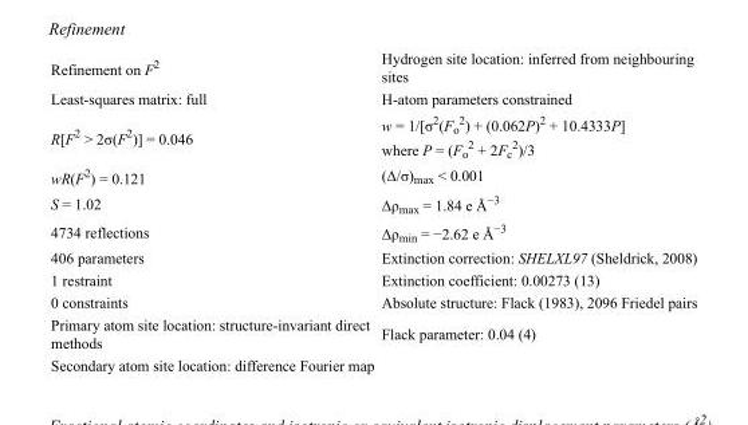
<table><tbody><tr><td>Refinement on F<sup>2</sup></td><td>Hydrogen site location: inferred from neighbouring sites</td></tr><tr><td>Least-squares matrix: full</td><td>H-atom parameters constrained</td></tr><tr><td>R[F<sup>2</sup> &gt; 2σ(F<sup>2</sup>)] = 0.046</td><td>w = 1/[σ<sup>2</sup>(F<sub>o</sub> <sup>2</sup>) + (0.062P)<sup>2</sup> + 10.4333P] where P = (F<sub>o</sub> <sup>2</sup> + 2F<sub>c</sub> <sup>2</sup>)/3</td></tr><tr><td>wR(F<sup>2</sup>) = 0.121</td><td>(Δ/σ)<sub>max</sub> &lt; 0.001</td></tr><tr><td>S = 1.02</td><td>Δρ<sub>max</sub> = 1.84 e Å<sup>−3</sup></td></tr><tr><td>4734 reflections</td><td>Δρ<sub>min</sub> = −2.62 e Å<sup>−3</sup></td></tr><tr><td>406 parameters</td><td>Extinction correction: SHELXL97 (Sheldrick, 2008)</td></tr><tr><td>1 restraint</td><td>Extinction coefficient: 0.00273 (13)</td></tr><tr><td>0 constraints</td><td>Absolute structure: Flack (1983), 2096 Friedel pairs</td></tr><tr><td>Primary atom site location: structure-invariant direct methods</td><td>Flack parameter: 0.04 (4)</td></tr><tr><td>Secondary atom site location: difference Fourier map</td><td></td></tr></tbody></table>